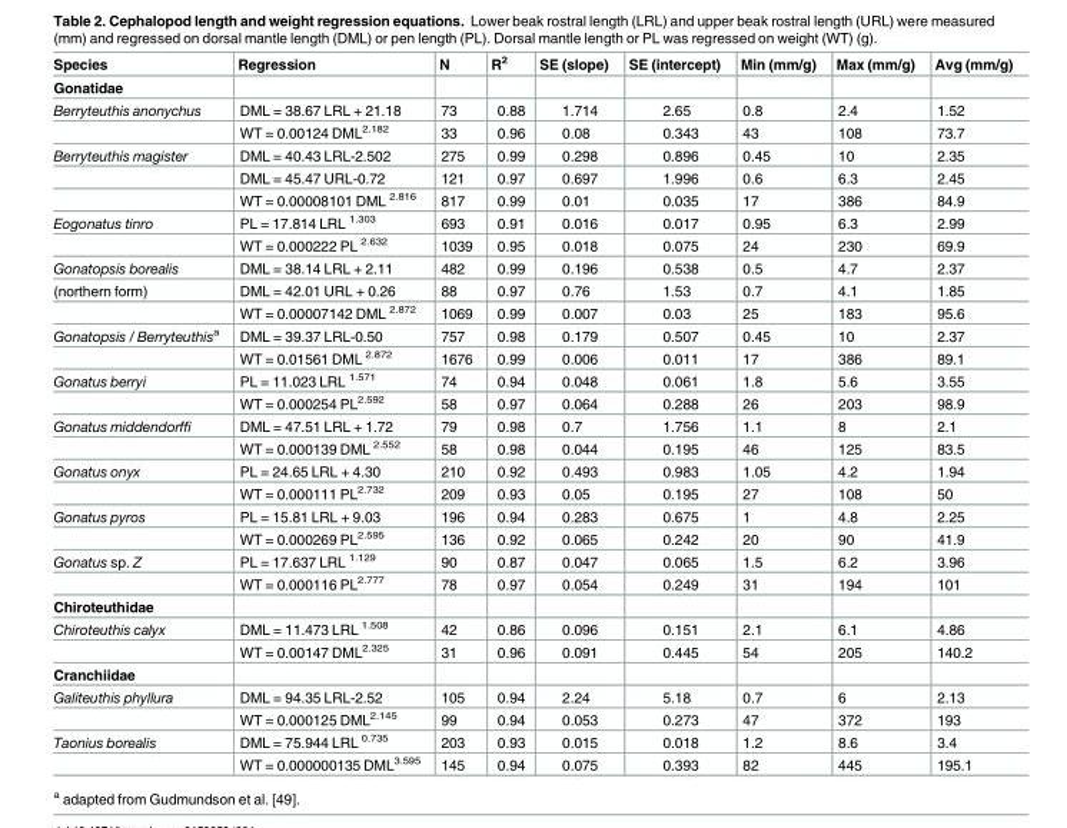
<table><thead><tr><td>Species</td><td>Regression</td><td>N</td><td>R<sup>2</sup></td><td>SE (slope)</td><td>SE (intercept)</td><td>Min (mm/g)</td><td>Max (mm/g)</td><td>Avg (mm/g)</td></tr></thead><tbody><tr><td colspan="9">Gonatidae</td></tr><tr><td rowspan="2">Berryteuthis anonychus</td><td>DML = 38.67 LRL + 21.18</td><td>73</td><td>0.88</td><td>1.714</td><td>2.65</td><td>0.8</td><td>2.4</td><td>1.52</td></tr><tr><td>WT = 0.00124 DML<sup>2.182</sup></td><td>33</td><td>0.96</td><td>0.08</td><td>0.343</td><td>43</td><td>108</td><td>73.7</td></tr><tr><td rowspan="3">Berryteuthis magister</td><td>DML = 40.43 LRL-2.502</td><td>275</td><td>0.99</td><td>0.298</td><td>0.896</td><td>0.45</td><td>10</td><td>2.35</td></tr><tr><td>DML = 45.47 URL-0.72</td><td>121</td><td>0.97</td><td>0.697</td><td>1.996</td><td>0.6</td><td>6.3</td><td>2.45</td></tr><tr><td>WT = 0.00008101 DML <sup>2.816</sup></td><td>817</td><td>0.99</td><td>0.01</td><td>0.035</td><td>17</td><td>386</td><td>84.9</td></tr><tr><td rowspan="2">Eogonatus tinro</td><td>PL = 17.814 LRL <sup>1.303</sup></td><td>693</td><td>0.91</td><td>0.016</td><td>0.017</td><td>0.95</td><td>6.3</td><td>2.99</td></tr><tr><td>WT = 0.000222 PL <sup>2.632</sup></td><td>1039</td><td>0.95</td><td>0.018</td><td>0.075</td><td>24</td><td>230</td><td>69.9</td></tr><tr><td>Gonatopsis borealis</td><td>DML = 38.14 LRL + 2.11</td><td>482</td><td>0.99</td><td>0.196</td><td>0.538</td><td>0.5</td><td>4.7</td><td>2.37</td></tr><tr><td rowspan="2">(northern form)</td><td>DML = 42.01 URL + 0.26</td><td>88</td><td>0.97</td><td>0.76</td><td>1.53</td><td>0.7</td><td>4.1</td><td>1.85</td></tr><tr><td>WT = 0.00007142 DML <sup>2.872</sup></td><td>1069</td><td>0.99</td><td>0.007</td><td>0.03</td><td>25</td><td>183</td><td>95.6</td></tr><tr><td rowspan="2">Gonatopsis / Berryteuthis<sup>a</sup></td><td>DML = 39.37 LRL-0.50</td><td>757</td><td>0.98</td><td>0.179</td><td>0.507</td><td>0.45</td><td>10</td><td>2.37</td></tr><tr><td>WT = 0.01561 DML <sup>2.872</sup></td><td>1676</td><td>0.99</td><td>0.006</td><td>0.011</td><td>17</td><td>386</td><td>89.1</td></tr><tr><td rowspan="2">Gonatus berryi</td><td>PL = 11.023 LRL <sup>1.571</sup></td><td>74</td><td>0.94</td><td>0.048</td><td>0.061</td><td>1.8</td><td>5.6</td><td>3.55</td></tr><tr><td>WT = 0.000254 PL<sup>2.592</sup></td><td>58</td><td>0.97</td><td>0.064</td><td>0.288</td><td>26</td><td>203</td><td>98.9</td></tr><tr><td rowspan="2">Gonatus middendorffi</td><td>DML = 47.51 LRL + 1.72</td><td>79</td><td>0.98</td><td>0.7</td><td>1.756</td><td>1.1</td><td>8</td><td>2.1</td></tr><tr><td>WT = 0.000139 DML <sup>2.552</sup></td><td>58</td><td>0.98</td><td>0.044</td><td>0.195</td><td>46</td><td>125</td><td>83.5</td></tr><tr><td rowspan="2">Gonatus onyx</td><td>PL = 24.65 LRL + 4.30</td><td>210</td><td>0.92</td><td>0.493</td><td>0.983</td><td>1.05</td><td>4.2</td><td>1.94</td></tr><tr><td>WT = 0.000111 PL<sup>2.732</sup></td><td>209</td><td>0.93</td><td>0.05</td><td>0.195</td><td>27</td><td>108</td><td>50</td></tr><tr><td rowspan="2">Gonatus pyros</td><td>PL = 15.81 LRL + 9.03</td><td>196</td><td>0.94</td><td>0.283</td><td>0.675</td><td>1</td><td>4.8</td><td>2.25</td></tr><tr><td>WT = 0.000269 PL<sup>2.595</sup></td><td>136</td><td>0.92</td><td>0.065</td><td>0.242</td><td>20</td><td>90</td><td>41.9</td></tr><tr><td rowspan="2">Gonatus sp. Z</td><td>PL = 17.637 LRL <sup>1.129</sup></td><td>90</td><td>0.87</td><td>0.047</td><td>0.065</td><td>1.5</td><td>6.2</td><td>3.96</td></tr><tr><td>WT = 0.000116 PL<sup>2.777</sup></td><td>78</td><td>0.97</td><td>0.054</td><td>0.249</td><td>31</td><td>194</td><td>101</td></tr><tr><td colspan="9">Chiroteuthidae</td></tr><tr><td rowspan="2">Chiroteuthis calyx</td><td>DML = 11.473 LRL <sup>1.508</sup></td><td>42</td><td>0.86</td><td>0.096</td><td>0.151</td><td>2.1</td><td>6.1</td><td>4.86</td></tr><tr><td>WT = 0.00147 DML<sup>2.325</sup></td><td>31</td><td>0.96</td><td>0.091</td><td>0.445</td><td>54</td><td>205</td><td>140.2</td></tr><tr><td colspan="9">Cranchiidae</td></tr><tr><td rowspan="2">Galiteuthis phyllura</td><td>DML = 94.35 LRL-2.52</td><td>105</td><td>0.94</td><td>2.24</td><td>5.18</td><td>0.7</td><td>6</td><td>2.13</td></tr><tr><td>WT = 0.000125 DML<sup>2.145</sup></td><td>99</td><td>0.94</td><td>0.053</td><td>0.273</td><td>47</td><td>372</td><td>193</td></tr><tr><td rowspan="2">Taonius borealis</td><td>DML = 75.944 LRL <sup>0.735</sup></td><td>203</td><td>0.93</td><td>0.015</td><td>0.018</td><td>1.2</td><td>8.6</td><td>3.4</td></tr><tr><td>WT = 0.000000135 DML<sup>3.595</sup></td><td>145</td><td>0.94</td><td>0.075</td><td>0.393</td><td>82</td><td>445</td><td>195.1</td></tr></tbody></table>